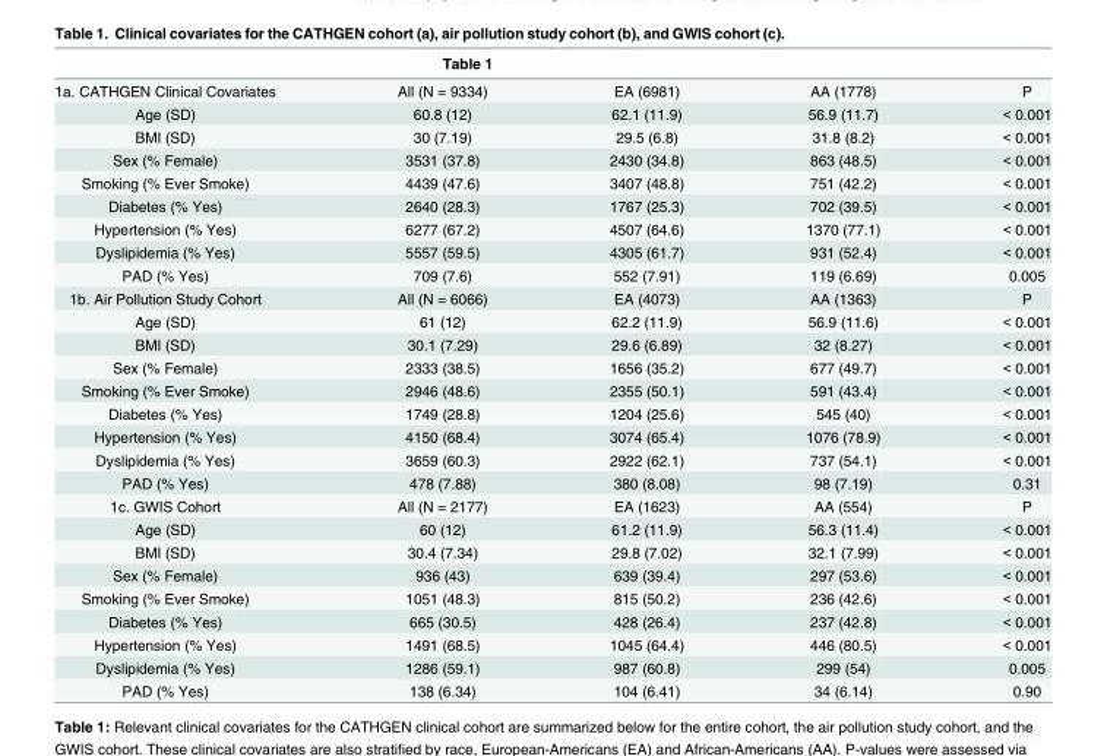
<table><thead><tr><td colspan="4">Table 1</td><td rowspan="2">P</td></tr><tr><td>1a. CATHGEN Clinical Covariates</td><td>All (N = 9334)</td><td>EA (6981)</td><td>AA (1778)</td></tr></thead><tbody><tr><td>Age (SD)</td><td>60.8 (12)</td><td>62.1 (11.9)</td><td>56.9 (11.7)</td><td>&lt; 0.001</td></tr><tr><td>BMI (SD)</td><td>30 (7.19)</td><td>29.5 (6.8)</td><td>31.8 (8.2)</td><td>&lt; 0.001</td></tr><tr><td>Sex (% Female)</td><td>3531 (37.8)</td><td>2430 (34.8)</td><td>863 (48.5)</td><td>&lt; 0.001</td></tr><tr><td>Smoking (% Ever Smoke)</td><td>4439 (47.6)</td><td>3407 (48.8)</td><td>751 (42.2)</td><td>&lt; 0.001</td></tr><tr><td>Diabetes (% Yes)</td><td>2640 (28.3)</td><td>1767 (25.3)</td><td>702 (39.5)</td><td>&lt; 0.001</td></tr><tr><td>Hypertension (% Yes)</td><td>6277 (67.2)</td><td>4507 (64.6)</td><td>1370 (77.1)</td><td>&lt; 0.001</td></tr><tr><td>Dyslipidemia (% Yes)</td><td>5557 (59.5)</td><td>4305 (61.7)</td><td>931 (52.4)</td><td>&lt; 0.001</td></tr><tr><td>PAD (% Yes)</td><td>709 (7.6)</td><td>552 (7.91)</td><td>119 (6.69)</td><td>0.005</td></tr><tr><td>1b. Air Pollution Study Cohort</td><td>All (N = 6066)</td><td>EA (4073)</td><td>AA (1363)</td><td>P</td></tr><tr><td>Age (SD)</td><td>61 (12)</td><td>62.2 (11.9)</td><td>56.9 (11.6)</td><td>&lt; 0.001</td></tr><tr><td>BMI (SD)</td><td>30.1 (7.29)</td><td>29.6 (6.89)</td><td>32 (8.27)</td><td>&lt; 0.001</td></tr><tr><td>Sex (% Female)</td><td>2333 (38.5)</td><td>1656 (35.2)</td><td>677 (49.7)</td><td>&lt; 0.001</td></tr><tr><td>Smoking (% Ever Smoke)</td><td>2946 (48.6)</td><td>2355 (50.1)</td><td>591 (43.4)</td><td>&lt; 0.001</td></tr><tr><td>Diabetes (% Yes)</td><td>1749 (28.8)</td><td>1204 (25.6)</td><td>545 (40)</td><td>&lt; 0.001</td></tr><tr><td>Hypertension (% Yes)</td><td>4150 (68.4)</td><td>3074 (65.4)</td><td>1076 (78.9)</td><td>&lt; 0.001</td></tr><tr><td>Dyslipidemia (% Yes)</td><td>3659 (60.3)</td><td>2922 (62.1)</td><td>737 (54.1)</td><td>&lt; 0.001</td></tr><tr><td>PAD (% Yes)</td><td>478 (7.88)</td><td>380 (8.08)</td><td>98 (7.19)</td><td>0.31</td></tr><tr><td>1c. GWIS Cohort</td><td>All (N = 2177)</td><td>EA (1623)</td><td>AA (554)</td><td>P</td></tr><tr><td>Age (SD)</td><td>60 (12)</td><td>61.2 (11.9)</td><td>56.3 (11.4)</td><td>&lt; 0.001</td></tr><tr><td>BMI (SD)</td><td>30.4 (7.34)</td><td>29.8 (7.02)</td><td>32.1 (7.99)</td><td>&lt; 0.001</td></tr><tr><td>Sex (% Female)</td><td>936 (43)</td><td>639 (39.4)</td><td>297 (53.6)</td><td>&lt; 0.001</td></tr><tr><td>Smoking (% Ever Smoke)</td><td>1051 (48.3)</td><td>815 (50.2)</td><td>236 (42.6)</td><td>&lt; 0.001</td></tr><tr><td>Diabetes (% Yes)</td><td>665 (30.5)</td><td>428 (26.4)</td><td>237 (42.8)</td><td>&lt; 0.001</td></tr><tr><td>Hypertension (% Yes)</td><td>1491 (68.5)</td><td>1045 (64.4)</td><td>446 (80.5)</td><td>&lt; 0.001</td></tr><tr><td>Dyslipidemia (% Yes)</td><td>1286 (59.1)</td><td>987 (60.8)</td><td>299 (54)</td><td>0.005</td></tr><tr><td>PAD (% Yes)</td><td>138 (6.34)</td><td>104 (6.41)</td><td>34 (6.14)</td><td>0.90</td></tr></tbody></table>